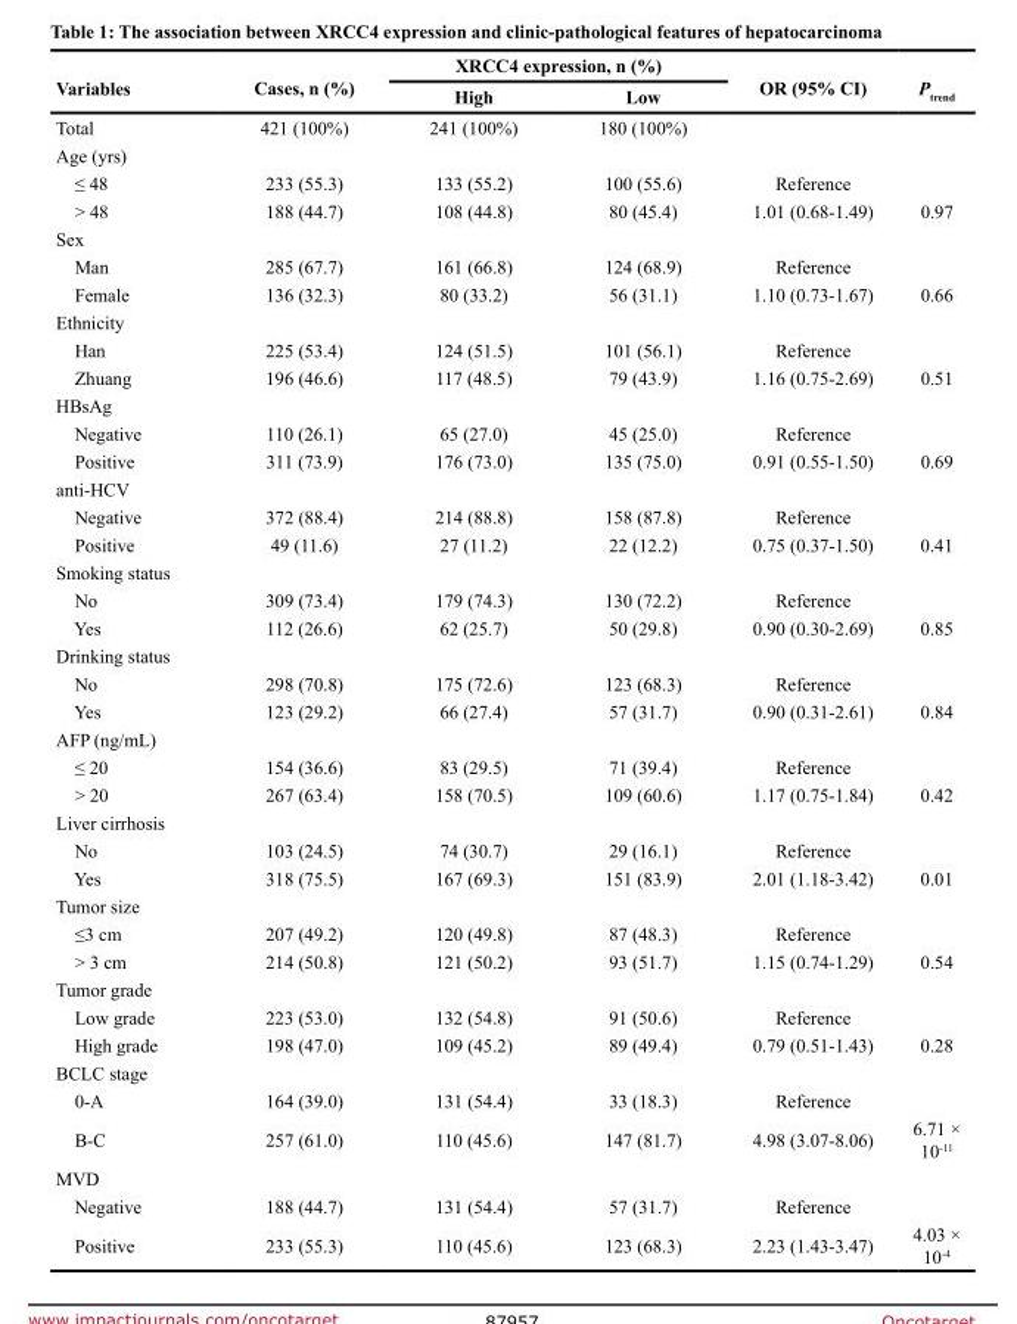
<table><thead><tr><td rowspan="2">Variables</td><td rowspan="2">Cases, n (%)</td><td colspan="2">XRCC4 expression, n (%)</td><td rowspan="2">OR (95% CI)</td><td rowspan="2">P<sub>trend</sub></td></tr><tr><td>High</td><td>Low</td></tr></thead><tbody><tr><td>Total</td><td>421 (100%)</td><td>241 (100%)</td><td>180 (100%)</td><td></td><td></td></tr><tr><td colspan="6">Age (yrs)</td></tr><tr><td>≤ 48</td><td>233 (55.3)</td><td>133 (55.2)</td><td>100 (55.6)</td><td>Reference</td><td></td></tr><tr><td>&gt; 48</td><td>188 (44.7)</td><td>108 (44.8)</td><td>80 (45.4)</td><td>1.01 (0.68-1.49)</td><td>0.97</td></tr><tr><td colspan="6">Sex</td></tr><tr><td>Man</td><td>285 (67.7)</td><td>161 (66.8)</td><td>124 (68.9)</td><td>Reference</td><td></td></tr><tr><td>Female</td><td>136 (32.3)</td><td>80 (33.2)</td><td>56 (31.1)</td><td>1.10 (0.73-1.67)</td><td>0.66</td></tr><tr><td colspan="6">Ethnicity</td></tr><tr><td>Han</td><td>225 (53.4)</td><td>124 (51.5)</td><td>101 (56.1)</td><td>Reference</td><td></td></tr><tr><td>Zhuang</td><td>196 (46.6)</td><td>117 (48.5)</td><td>79 (43.9)</td><td>1.16 (0.75-2.69)</td><td>0.51</td></tr><tr><td colspan="6">HBsAg</td></tr><tr><td>Negative</td><td>110 (26.1)</td><td>65 (27.0)</td><td>45 (25.0)</td><td>Reference</td><td></td></tr><tr><td>Positive</td><td>311 (73.9)</td><td>176 (73.0)</td><td>135 (75.0)</td><td>0.91 (0.55-1.50)</td><td>0.69</td></tr><tr><td colspan="6">anti-HCV</td></tr><tr><td>Negative</td><td>372 (88.4)</td><td>214 (88.8)</td><td>158 (87.8)</td><td>Reference</td><td></td></tr><tr><td>Positive</td><td>49 (11.6)</td><td>27 (11.2)</td><td>22 (12.2)</td><td>0.75 (0.37-1.50)</td><td>0.41</td></tr><tr><td colspan="6">Smoking status</td></tr><tr><td>No</td><td>309 (73.4)</td><td>179 (74.3)</td><td>130 (72.2)</td><td>Reference</td><td></td></tr><tr><td>Yes</td><td>112 (26.6)</td><td>62 (25.7)</td><td>50 (29.8)</td><td>0.90 (0.30-2.69)</td><td>0.85</td></tr><tr><td colspan="6">Drinking status</td></tr><tr><td>No</td><td>298 (70.8)</td><td>175 (72.6)</td><td>123 (68.3)</td><td>Reference</td><td></td></tr><tr><td>Yes</td><td>123 (29.2)</td><td>66 (27.4)</td><td>57 (31.7)</td><td>0.90 (0.31-2.61)</td><td>0.84</td></tr><tr><td colspan="6">AFP (ng/mL)</td></tr><tr><td>≤ 20</td><td>154 (36.6)</td><td>83 (29.5)</td><td>71 (39.4)</td><td>Reference</td><td></td></tr><tr><td>&gt; 20</td><td>267 (63.4)</td><td>158 (70.5)</td><td>109 (60.6)</td><td>1.17 (0.75-1.84)</td><td>0.42</td></tr><tr><td colspan="6">Liver cirrhosis</td></tr><tr><td>No</td><td>103 (24.5)</td><td>74 (30.7)</td><td>29 (16.1)</td><td>Reference</td><td></td></tr><tr><td>Yes</td><td>318 (75.5)</td><td>167 (69.3)</td><td>151 (83.9)</td><td>2.01 (1.18-3.42)</td><td>0.01</td></tr><tr><td colspan="6">Tumor size</td></tr><tr><td>≤3 cm</td><td>207 (49.2)</td><td>120 (49.8)</td><td>87 (48.3)</td><td>Reference</td><td></td></tr><tr><td>&gt; 3 cm</td><td>214 (50.8)</td><td>121 (50.2)</td><td>93 (51.7)</td><td>1.15 (0.74-1.29)</td><td>0.54</td></tr><tr><td colspan="6">Tumor grade</td></tr><tr><td>Low grade</td><td>223 (53.0)</td><td>132 (54.8)</td><td>91 (50.6)</td><td>Reference</td><td></td></tr><tr><td>High grade</td><td>198 (47.0)</td><td>109 (45.2)</td><td>89 (49.4)</td><td>0.79 (0.51-1.43)</td><td>0.28</td></tr><tr><td colspan="6">BCLC stage</td></tr><tr><td>0-A</td><td>164 (39.0)</td><td>131 (54.4)</td><td>33 (18.3)</td><td>Reference</td><td></td></tr><tr><td>B-C</td><td>257 (61.0)</td><td>110 (45.6)</td><td>147 (81.7)</td><td>4.98 (3.07-8.06)</td><td>6.71 × 10<sup>-11</sup></td></tr><tr><td colspan="6">MVD</td></tr><tr><td>Negative</td><td>188 (44.7)</td><td>131 (54.4)</td><td>57 (31.7)</td><td>Reference</td><td></td></tr><tr><td>Positive</td><td>233 (55.3)</td><td>110 (45.6)</td><td>123 (68.3)</td><td>2.23 (1.43-3.47)</td><td>4.03 × 10<sup>-4</sup></td></tr></tbody></table>